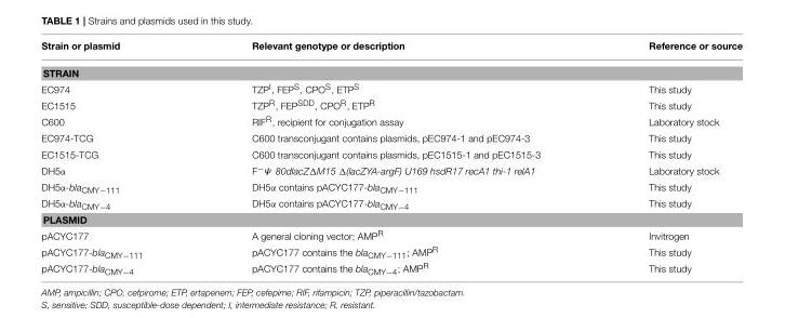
<table><thead><tr><td>Strain or plasmid</td><td>Relevant genotype or description</td><td>Reference or source</td></tr></thead><tbody><tr><td colspan="3">STRAIN</td></tr><tr><td>EC974</td><td>TZP<sup>I</sup>, FEP<sup>S</sup>, CPO<sup>S</sup>, ETP<sup>S</sup></td><td>This study</td></tr><tr><td>EC1515</td><td>TZP<sup>R</sup>, FEP<sup>SDD</sup>, CPO<sup>R</sup>, ETP<sup>R</sup></td><td>This study</td></tr><tr><td>C600</td><td>RIF<sup>R</sup>, recipient for conjugation assay</td><td>Laboratory stock</td></tr><tr><td>EC974-TCG</td><td>C600 transconjugant contains plasmids, pEC974-1 and pEC974-3</td><td>This study</td></tr><tr><td>EC1515-TCG</td><td>C600 transconjugant contains plasmids, pEC1515-1 and pEC1515-3</td><td>This study</td></tr><tr><td>DH5α</td><td>F<sup>−</sup>Ψ 80dlacZΔM15 Δ(lacZYA-argF) U169 hsdR17 recA1 thi-1 relA1</td><td>Laboratory stock</td></tr><tr><td>DH5α-bla<sub>CMY−111</sub></td><td>DH5α contains pACYC177-bla<sub>CMY−111</sub></td><td>This study</td></tr><tr><td>DH5α-bla<sub>CMY−4</sub></td><td>DH5α contains pACYC177-bla<sub>CMY−4</sub></td><td>This study</td></tr><tr><td colspan="3">PLASMID</td></tr><tr><td>pACYC177</td><td>A general cloning vector; AMP<sup>R</sup></td><td>Invitrogen</td></tr><tr><td>pACYC177-bla<sub>CMY−111</sub></td><td>pACYC177 contains the bla<sub>CMY−111</sub>; AMP<sup>R</sup></td><td>This study</td></tr><tr><td>pACYC177-bla<sub>CMY−4</sub></td><td>pACYC177 contains the bla<sub>CMY−4</sub>; AMP<sup>R</sup></td><td>This study</td></tr></tbody></table>